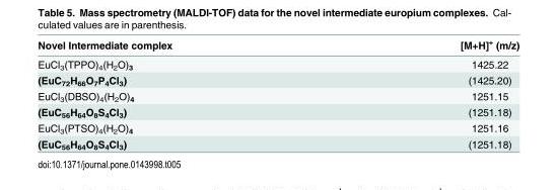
<table><thead><tr><td>Novel Intermediate complex</td><td>[M+H]<sup>+</sup> (m/z)</td></tr></thead><tbody><tr><td>EuCl<sub>3</sub>(TPPO)<sub>4</sub>(H<sub>2</sub>O)<sub>3</sub></td><td>1425.22</td></tr><tr><td>(EuC<sub>72</sub>H<sub>66</sub>O<sub>7</sub>P<sub>4</sub>Cl<sub>3</sub>)</td><td>(1425.20)</td></tr><tr><td>EuCl<sub>3</sub>(DBSO)<sub>4</sub>(H<sub>2</sub>O)<sub>4</sub></td><td>1251.15</td></tr><tr><td>(EuC<sub>56</sub>H<sub>64</sub>O<sub>8</sub>S<sub>4</sub>Cl<sub>3</sub>)</td><td>(1251.18)</td></tr><tr><td>EuCl<sub>3</sub>(PTSO)<sub>4</sub>(H<sub>2</sub>O)<sub>4</sub></td><td>1251.16</td></tr><tr><td>(EuC<sub>56</sub>H<sub>64</sub>O<sub>8</sub>S<sub>4</sub>Cl<sub>3</sub>)</td><td>(1251.18)</td></tr></tbody></table>